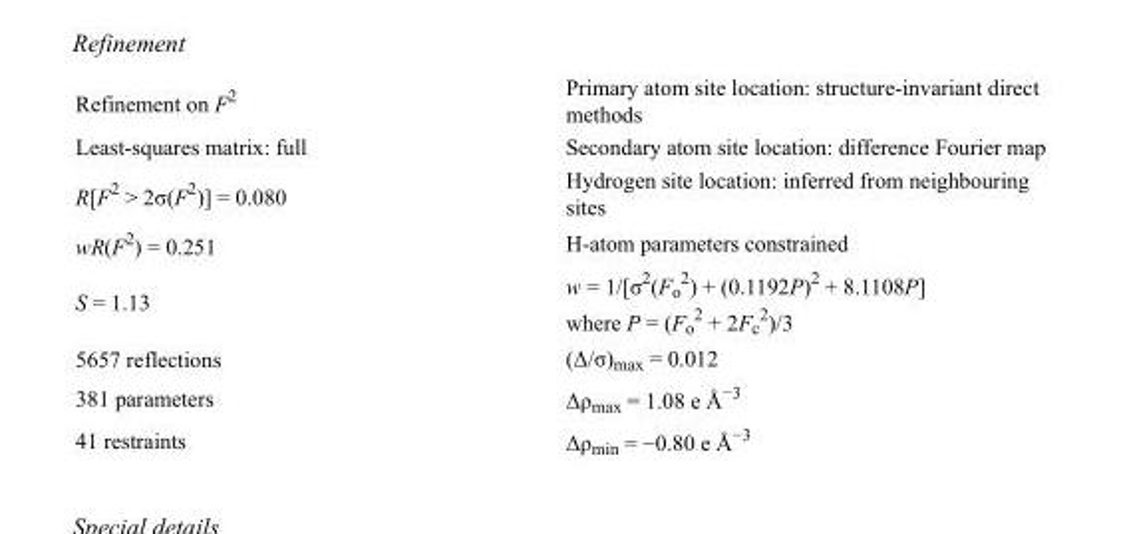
<table><tbody><tr><td>Refinement on F<sup>2</sup></td><td>Primary atom site location: structure-invariant direct methods</td></tr><tr><td>Least-squares matrix: full</td><td>Secondary atom site location: difference Fourier map</td></tr><tr><td>R[F<sup>2</sup> &gt; 2σ(F<sup>2</sup>)] = 0.080</td><td>Hydrogen site location: inferred from neighbouring sites</td></tr><tr><td>wR(F<sup>2</sup>) = 0.251</td><td>H-atom parameters constrained</td></tr><tr><td>S = 1.13</td><td>w = 1/[σ<sup>2</sup>(F<sub>o</sub> <sup>2</sup>) + (0.1192P)<sup>2</sup> + 8.1108P] where P = (F<sub>o</sub> <sup>2</sup> + 2F<sub>c</sub> <sup>2</sup>)/3</td></tr><tr><td>5657 reflections</td><td>(Δ/σ)<sub>max</sub> = 0.012</td></tr><tr><td>381 parameters</td><td>Δρ<sub>max</sub> = 1.08 e Å<sup>−3</sup></td></tr><tr><td>41 restraints</td><td>Δρ<sub>min</sub> = −0.80 e Å<sup>−3</sup></td></tr></tbody></table>